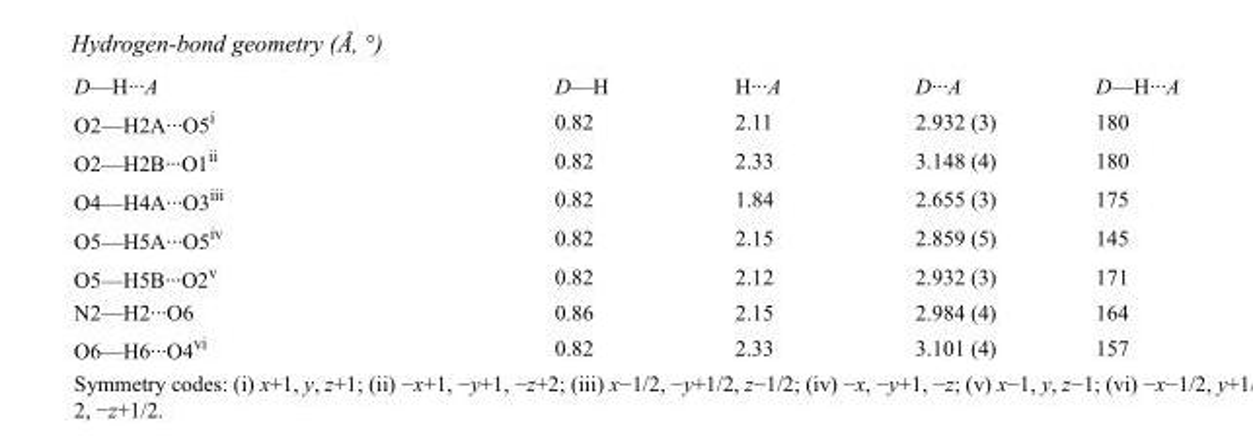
<table><tbody><tr><td>D—H···A</td><td>D—H</td><td>H···A</td><td>D···A</td><td>D—H···A</td></tr><tr><td>O2—H2A···O5<sup>i</sup></td><td>0.82</td><td>2.11</td><td>2.932 (3)</td><td>180</td></tr><tr><td>O2—H2B···O1<sup>ii</sup></td><td>0.82</td><td>2.33</td><td>3.148 (4)</td><td>180</td></tr><tr><td>O4—H4A···O3<sup>iii</sup></td><td>0.82</td><td>1.84</td><td>2.655 (3)</td><td>175</td></tr><tr><td>O5—H5A···O5<sup>iv</sup></td><td>0.82</td><td>2.15</td><td>2.859 (5)</td><td>145</td></tr><tr><td>O5—H5B···O2<sup>v</sup></td><td>0.82</td><td>2.12</td><td>2.932 (3)</td><td>171</td></tr><tr><td>N2—H2···O6</td><td>0.86</td><td>2.15</td><td>2.984 (4)</td><td>164</td></tr><tr><td>O6—H6···O4<sup>vi</sup></td><td>0.82</td><td>2.33</td><td>3.101 (4)</td><td>157</td></tr></tbody></table>